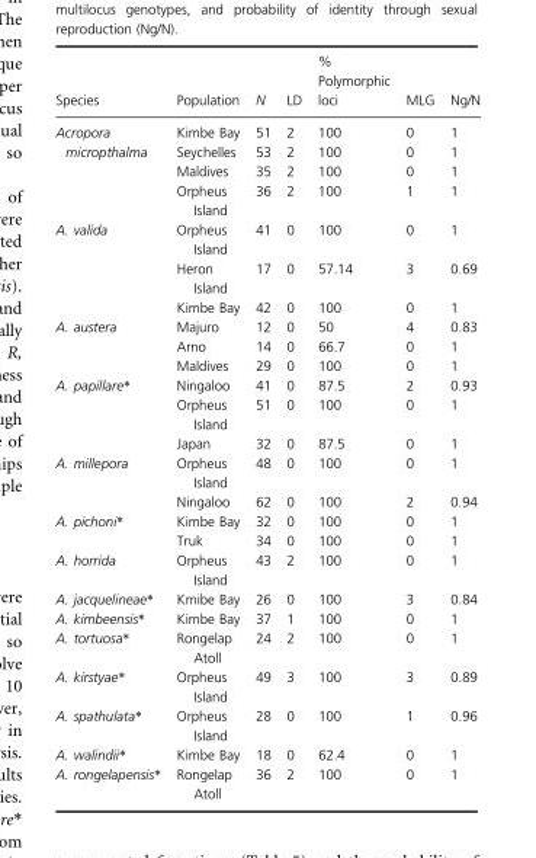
<table><thead><tr><td>Species</td><td>Population</td><td>N</td><td>LD</td><td>% Polymorphic loci</td><td>MLG</td><td>Ng/N</td></tr></thead><tbody><tr><td rowspan="4">Acropora micropthalma</td><td>Kimbe Bay</td><td>51</td><td>2</td><td>100</td><td>0</td><td>1</td></tr><tr><td>Seychelles</td><td>53</td><td>2</td><td>100</td><td>0</td><td>1</td></tr><tr><td>Maldives</td><td>35</td><td>2</td><td>100</td><td>0</td><td>1</td></tr><tr><td>Orpheus Island</td><td>36</td><td>2</td><td>100</td><td>1</td><td>1</td></tr><tr><td rowspan="3">A. valida</td><td>Orpheus Island</td><td>41</td><td>0</td><td>100</td><td>0</td><td>1</td></tr><tr><td>Heron Island</td><td>17</td><td>0</td><td>57.14</td><td>3</td><td>0.69</td></tr><tr><td>Kimbe Bay</td><td>42</td><td>0</td><td>100</td><td>0</td><td>1</td></tr><tr><td rowspan="3">A. austera</td><td>Majuro</td><td>12</td><td>0</td><td>50</td><td>4</td><td>0.83</td></tr><tr><td>Arno</td><td>14</td><td>0</td><td>66.7</td><td>0</td><td>1</td></tr><tr><td>Maldives</td><td>29</td><td>0</td><td>100</td><td>0</td><td>1</td></tr><tr><td rowspan="3">A. papillare*</td><td>Ningaloo</td><td>41</td><td>0</td><td>87.5</td><td>2</td><td>0.93</td></tr><tr><td>Orpheus Island</td><td>51</td><td>0</td><td>100</td><td>0</td><td>1</td></tr><tr><td>Japan</td><td>32</td><td>0</td><td>87.5</td><td>0</td><td>1</td></tr><tr><td rowspan="2">A. millepora</td><td>Orpheus Island</td><td>48</td><td>0</td><td>100</td><td>0</td><td>1</td></tr><tr><td>Ningaloo</td><td>62</td><td>0</td><td>100</td><td>2</td><td>0.94</td></tr><tr><td rowspan="2">A. pichoni*</td><td>Kimbe Bay</td><td>32</td><td>0</td><td>100</td><td>0</td><td>1</td></tr><tr><td>Truk</td><td>34</td><td>0</td><td>100</td><td>0</td><td>1</td></tr><tr><td>A. horrida</td><td>Orpheus Island</td><td>43</td><td>2</td><td>100</td><td>0</td><td>1</td></tr><tr><td>A. jacquelineae*</td><td>Kmibe Bay</td><td>26</td><td>0</td><td>100</td><td>3</td><td>0.84</td></tr><tr><td>A. kimbeensis*</td><td>Kimbe Bay</td><td>37</td><td>1</td><td>100</td><td>0</td><td>1</td></tr><tr><td>A. tortuosa*</td><td>Rongelap Atoll</td><td>24</td><td>2</td><td>100</td><td>0</td><td>1</td></tr><tr><td>A. kirstyae*</td><td>Orpheus Island</td><td>49</td><td>3</td><td>100</td><td>3</td><td>0.89</td></tr><tr><td>A. spathulata*</td><td>Orpheus Island</td><td>28</td><td>0</td><td>100</td><td>1</td><td>0.96</td></tr><tr><td>A. walindii*</td><td>Kimbe Bay</td><td>18</td><td>0</td><td>62.4</td><td>0</td><td>1</td></tr><tr><td>A. rongelapensis*</td><td>Rongelap Atoll</td><td>36</td><td>2</td><td>100</td><td>0</td><td>1</td></tr></tbody></table>